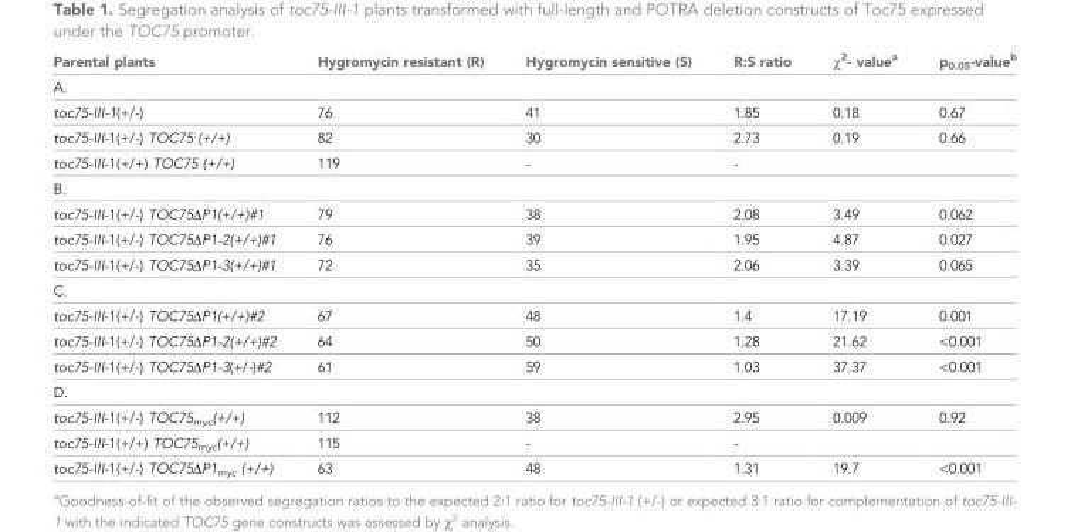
<table><thead><tr><td>Parental plants</td><td>Hygromycin resistant (R)</td><td>Hygromycin sensitive (S)</td><td>R:S ratio</td><td>χ<sup>2</sup>- value<sup>a</sup></td><td>p<sub>0.05</sub>-value<sup>b</sup></td></tr></thead><tbody><tr><td colspan="6">A.</td></tr><tr><td>toc75-III-1(+/-)</td><td>76</td><td>41</td><td>1.85</td><td>0.18</td><td>0.67</td></tr><tr><td>toc75-III-1(+/-) TOC75 (+/+)</td><td>82</td><td>30</td><td>2.73</td><td>0.19</td><td>0.66</td></tr><tr><td>toc75-III-1(+/+) TOC75 (+/+)</td><td>119</td><td>-</td><td>-</td><td></td><td></td></tr><tr><td colspan="6">B.</td></tr><tr><td>toc75-III-1(+/-) TOC75ΔP1(+/+)#1</td><td>79</td><td>38</td><td>2.08</td><td>3.49</td><td>0.062</td></tr><tr><td>toc75-III-1(+/-) TOC75ΔP1-2(+/+)#1</td><td>76</td><td>39</td><td>1.95</td><td>4.87</td><td>0.027</td></tr><tr><td>toc75-III-1(+/-) TOC75ΔP1-3(+/+)#1</td><td>72</td><td>35</td><td>2.06</td><td>3.39</td><td>0.065</td></tr><tr><td colspan="6">C.</td></tr><tr><td>toc75-III-1(+/-) TOC75ΔP1(+/+)#2</td><td>67</td><td>48</td><td>1.4</td><td>17.19</td><td>0.001</td></tr><tr><td>toc75-III-1(+/-) TOC75ΔP1-2(+/+)#2</td><td>64</td><td>50</td><td>1.28</td><td>21.62</td><td>&lt;0.001</td></tr><tr><td>toc75-III-1(+/-) TOC75ΔP1-3(+/-)#2</td><td>61</td><td>59</td><td>1.03</td><td>37.37</td><td>&lt;0.001</td></tr><tr><td colspan="6">D.</td></tr><tr><td>toc75-III-1(+/-) TOC75<sub>myc</sub>(+/+)</td><td>112</td><td>38</td><td>2.95</td><td>0.009</td><td>0.92</td></tr><tr><td>toc75-III-1(+/+) TOC75<sub>myc</sub>(+/+)</td><td>115</td><td>-</td><td>-</td><td></td><td></td></tr><tr><td>toc75-III-1(+/-) TOC75ΔP1<sub>myc</sub> (+/+)</td><td>63</td><td>48</td><td>1.31</td><td>19.7</td><td>&lt;0.001</td></tr></tbody></table>